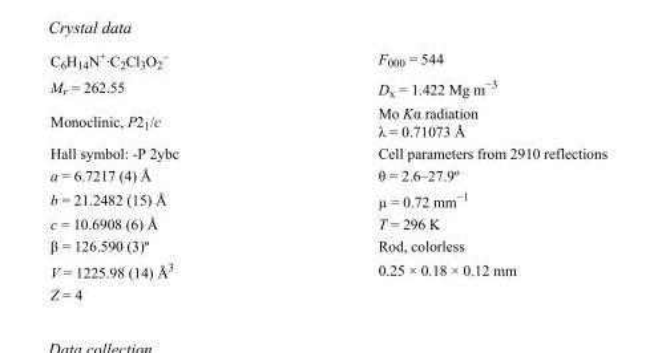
<table><tbody><tr><td>C<sub>6</sub>H<sub>14</sub>N<sup>+</sup>·C<sub>2</sub>Cl<sub>3</sub>O<sub>2</sub> <sup>–</sup></td><td>F000 = 544</td></tr><tr><td>M<sub>r</sub> = 262.55</td><td>D<sub>x</sub> = 1.422 Mg m<sup>−3</sup></td></tr><tr><td>Monoclinic, P2<sub>1</sub>/c</td><td>Mo Kα radiation λ = 0.71073 Å</td></tr><tr><td>Hall symbol: -P 2ybc</td><td>Cell parameters from 2910 reflections</td></tr><tr><td>a = 6.7217 (4) Å</td><td>θ = 2.6–27.9º</td></tr><tr><td>b = 21.2482 (15) Å</td><td>µ = 0.72 mm<sup>−1</sup></td></tr><tr><td>c = 10.6908 (6) Å</td><td>T = 296 K</td></tr><tr><td>β = 126.590 (3)º</td><td>Rod, colorless</td></tr><tr><td>V = 1225.98 (14) Å<sup>3</sup></td><td>0.25 × 0.18 × 0.12 mm</td></tr><tr><td>Z = 4</td><td></td></tr></tbody></table>